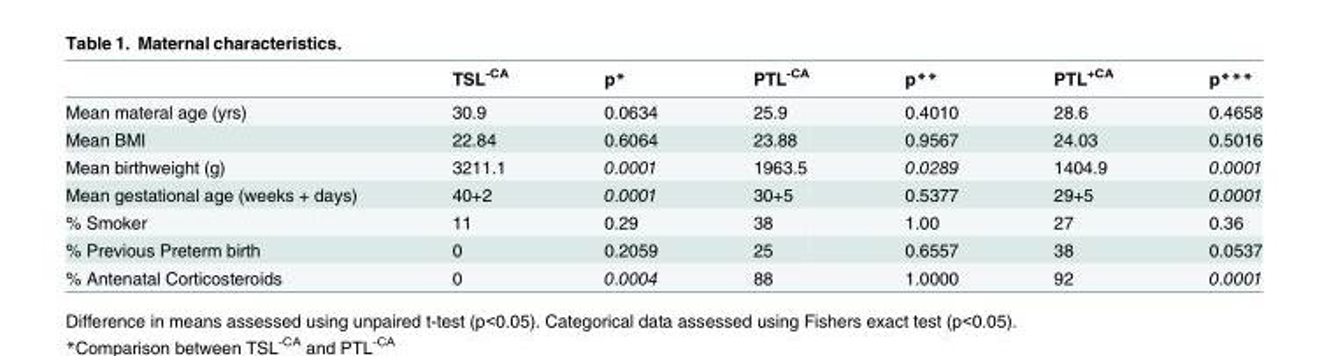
<table><thead><tr><td></td><td>TSL<sup>-CA</sup></td><td>p*</td><td>PTL<sup>-CA</sup></td><td>p**</td><td>PTL<sup>+CA</sup></td><td>p***</td></tr></thead><tbody><tr><td>Mean materal age (yrs)</td><td>30.9</td><td>0.0634</td><td>25.9</td><td>0.4010</td><td>28.6</td><td>0.4658</td></tr><tr><td>Mean BMI</td><td>22.84</td><td>0.6064</td><td>23.88</td><td>0.9567</td><td>24.03</td><td>0.5016</td></tr><tr><td>Mean birthweight (g)</td><td>3211.1</td><td>0.0001</td><td>1963.5</td><td>0.0289</td><td>1404.9</td><td>0.0001</td></tr><tr><td>Mean gestational age (weeks + days)</td><td>40+2</td><td>0.0001</td><td>30+5</td><td>0.5377</td><td>29+5</td><td>0.0001</td></tr><tr><td>% Smoker</td><td>11</td><td>0.29</td><td>38</td><td>1.00</td><td>27</td><td>0.36</td></tr><tr><td>% Previous Preterm birth</td><td>0</td><td>0.2059</td><td>25</td><td>0.6557</td><td>38</td><td>0.0537</td></tr><tr><td>% Antenatal Corticosteroids</td><td>0</td><td>0.0004</td><td>88</td><td>1.0000</td><td>92</td><td>0.0001</td></tr></tbody></table>